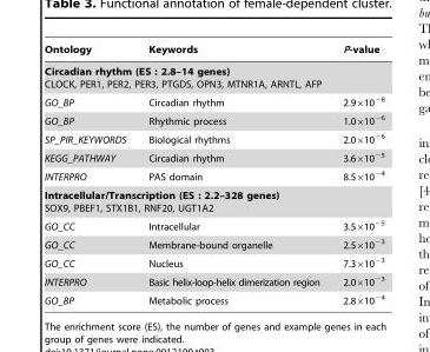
<table><thead><tr><td>Ontology</td><td>Keywords</td><td>P-value</td></tr></thead><tbody><tr><td colspan="3">Circadian rhythm (ES : 2.8–14 genes) CLOCK, PER1, PER2, PER3, PTGDS, OPN3, MTNR1A, ARNTL, AFP</td></tr><tr><td>GO_BP</td><td>Circadian rhythm</td><td>2.9×10<sup>−8</sup></td></tr><tr><td>GO_BP</td><td>Rhythmic process</td><td>1.0×10<sup>−6</sup></td></tr><tr><td>SP_PIR_KEYWORDS</td><td>Biological rhythms</td><td>2.0×10<sup>−6</sup></td></tr><tr><td>KEGG_PATHWAY</td><td>Circadian rhythm</td><td>3.6×10<sup>−5</sup></td></tr><tr><td>INTERPRO</td><td>PAS domain</td><td>8.5×10<sup>−4</sup></td></tr><tr><td colspan="3">Intracellular/Transcription (ES : 2.2–328 genes) SOX9, PBEF1, STX1B1, RNF20, UGT1A2</td></tr><tr><td>GO_CC</td><td>Intracellular</td><td>3.5×10<sup>−5</sup></td></tr><tr><td>GO_CC</td><td>Membrane-bound organelle</td><td>2.5×10<sup>−3</sup></td></tr><tr><td>GO_CC</td><td>Nucleus</td><td>7.3×10<sup>−3</sup></td></tr><tr><td>INTERPRO</td><td>Basic helix-loop-helix dimerization region</td><td>2.0×10<sup>−3</sup></td></tr><tr><td>GO_BP</td><td>Metabolic process</td><td>2.8×10<sup>−4</sup></td></tr></tbody></table>